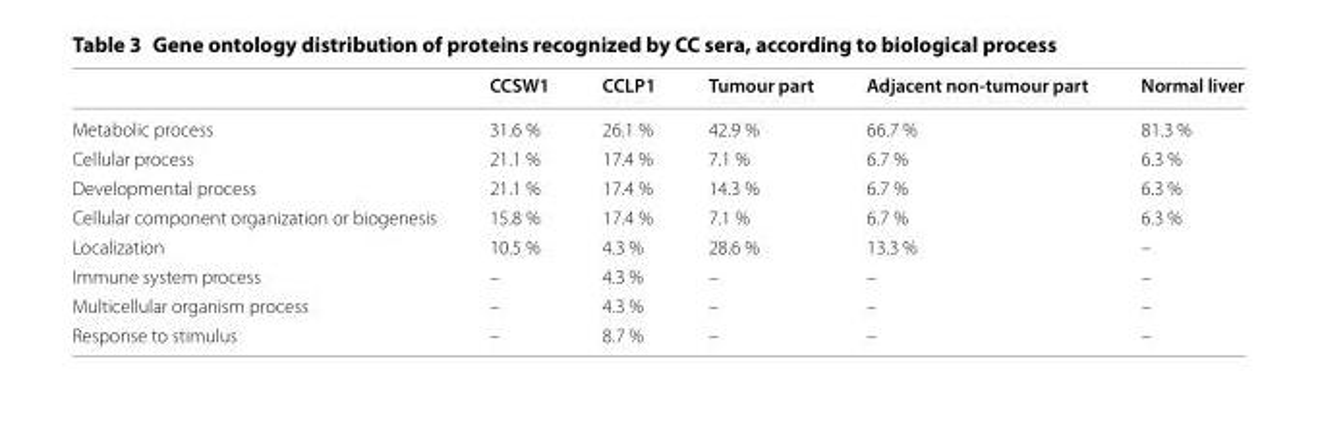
<table><thead><tr><td></td><td>CCSW1</td><td>CCLP1</td><td>Tumour part</td><td>Adjacent non‑tumour part</td><td>Normal liver</td></tr></thead><tbody><tr><td>Metabolic process</td><td>31.6 %</td><td>26.1 %</td><td>42.9 %</td><td>66.7 %</td><td>81.3 %</td></tr><tr><td>Cellular process</td><td>21.1 %</td><td>17.4 %</td><td>7.1 %</td><td>6.7 %</td><td>6.3 %</td></tr><tr><td>Developmental process</td><td>21.1 %</td><td>17.4 %</td><td>14.3 %</td><td>6.7 %</td><td>6.3 %</td></tr><tr><td>Cellular component organization or biogenesis</td><td>15.8 %</td><td>17.4 %</td><td>7.1 %</td><td>6.7 %</td><td>6.3 %</td></tr><tr><td>Localization</td><td>10.5 %</td><td>4.3 %</td><td>28.6 %</td><td>13.3 %</td><td>–</td></tr><tr><td>Immune system process</td><td>–</td><td>4.3 %</td><td>–</td><td>–</td><td>–</td></tr><tr><td>Multicellular organism process</td><td>–</td><td>4.3 %</td><td>–</td><td>–</td><td>–</td></tr><tr><td>Response to stimulus</td><td>–</td><td>8.7 %</td><td>–</td><td>–</td><td>–</td></tr></tbody></table>